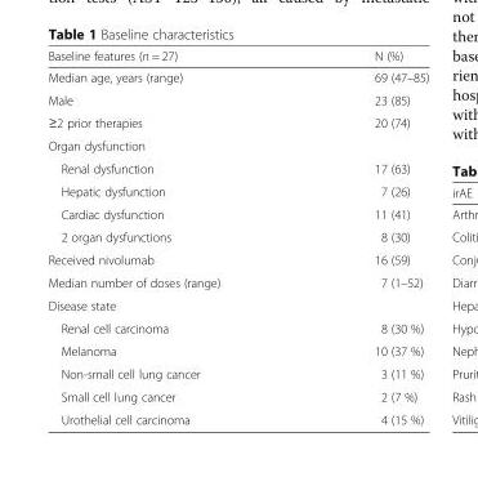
<table><thead><tr><td>Baseline features (n = 27)</td><td>N (%)</td></tr></thead><tbody><tr><td>Median age, years (range)</td><td>69 (47–85)</td></tr><tr><td>Male</td><td>23 (85)</td></tr><tr><td>≥2 prior therapies</td><td>20 (74)</td></tr><tr><td colspan="2">Organ dysfunction</td></tr><tr><td>Renal dysfunction</td><td>17 (63)</td></tr><tr><td>Hepatic dysfunction</td><td>7 (26)</td></tr><tr><td>Cardiac dysfunction</td><td>11 (41)</td></tr><tr><td>2 organ dysfunctions</td><td>8 (30)</td></tr><tr><td>Received nivolumab</td><td>16 (59)</td></tr><tr><td>Median number of doses (range)</td><td>7 (1–52)</td></tr><tr><td colspan="2">Disease state</td></tr><tr><td>Renal cell carcinoma</td><td>8 (30 %)</td></tr><tr><td>Melanoma</td><td>10 (37 %)</td></tr><tr><td>Non-small cell lung cancer</td><td>3 (11 %)</td></tr><tr><td>Small cell lung cancer</td><td>2 (7 %)</td></tr><tr><td>Urothelial cell carcinoma</td><td>4 (15 %)</td></tr></tbody></table>